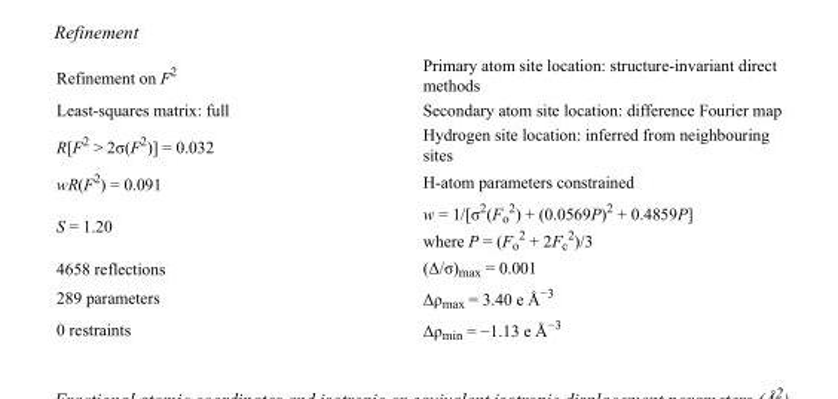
<table><tbody><tr><td>Refinement on F<sup>2</sup></td><td>Primary atom site location: structure-invariant direct methods</td></tr><tr><td>Least-squares matrix: full</td><td>Secondary atom site location: difference Fourier map</td></tr><tr><td>R[F<sup>2</sup> &gt; 2σ(F<sup>2</sup>)] = 0.032</td><td>Hydrogen site location: inferred from neighbouring sites</td></tr><tr><td>wR(F<sup>2</sup>) = 0.091</td><td>H-atom parameters constrained</td></tr><tr><td>S = 1.20</td><td>w = 1/[σ<sup>2</sup>(F<sub>o</sub> <sup>2</sup>) + (0.0569P)<sup>2</sup> + 0.4859P] where P = (F<sub>o</sub> <sup>2</sup> + 2F<sub>c</sub> <sup>2</sup>)/3</td></tr><tr><td>4658 reflections</td><td>(Δ/σ)<sub>max</sub> = 0.001</td></tr><tr><td>289 parameters</td><td>Δρ<sub>max</sub> = 3.40 e Å<sup>−3</sup></td></tr><tr><td>0 restraints</td><td>Δρ<sub>min</sub> = −1.13 e Å<sup>−3</sup></td></tr></tbody></table>